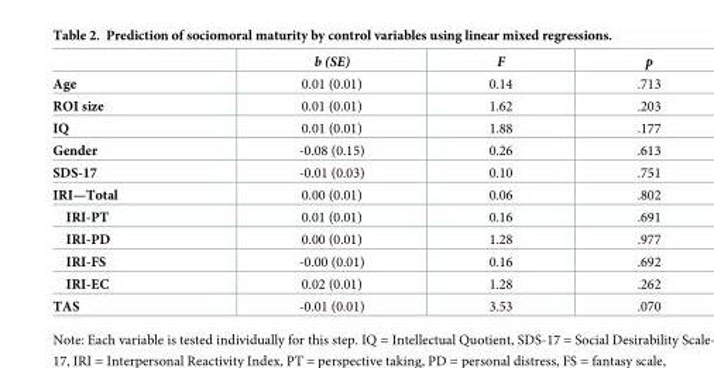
<table><thead><tr><td></td><td>b (SE)</td><td>F</td><td>p</td></tr></thead><tbody><tr><td>Age</td><td>0.01 (0.01)</td><td>0.14</td><td>.713</td></tr><tr><td>ROI size</td><td>0.01 (0.01)</td><td>1.62</td><td>.203</td></tr><tr><td>IQ</td><td>0.01 (0.01)</td><td>1.88</td><td>.177</td></tr><tr><td>Gender</td><td>-0.08 (0.15)</td><td>0.26</td><td>.613</td></tr><tr><td>SDS-17</td><td>-0.01 (0.03)</td><td>0.10</td><td>.751</td></tr><tr><td>IRI—Total</td><td>0.00 (0.01)</td><td>0.06</td><td>.802</td></tr><tr><td>IRI-PT</td><td>0.01 (0.01)</td><td>0.16</td><td>.691</td></tr><tr><td>IRI-PD</td><td>0.00 (0.01)</td><td>1.28</td><td>.977</td></tr><tr><td>IRI-FS</td><td>-0.00 (0.01)</td><td>0.16</td><td>.692</td></tr><tr><td>IRI-EC</td><td>0.02 (0.01)</td><td>1.28</td><td>.262</td></tr><tr><td>TAS</td><td>-0.01 (0.01)</td><td>3.53</td><td>.070</td></tr></tbody></table>